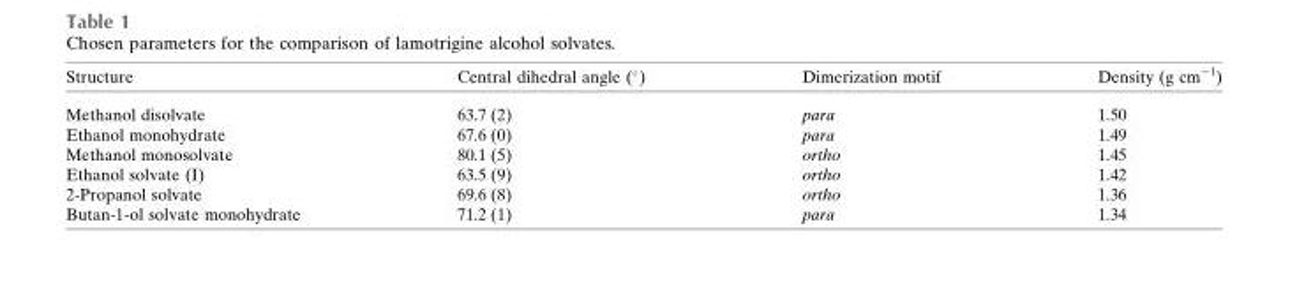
<table><thead><tr><td>Structure</td><td>Central dihedral angle (°)</td><td>Dimerization motif</td><td>Density (g cm<sup>−1</sup>)</td></tr></thead><tbody><tr><td>Methanol disolvate</td><td>63.7 (2)</td><td>para</td><td>1.50</td></tr><tr><td>Ethanol monohydrate</td><td>67.6 (0)</td><td>para</td><td>1.49</td></tr><tr><td>Methanol monosolvate</td><td>80.1 (5)</td><td>ortho</td><td>1.45</td></tr><tr><td>Ethanol solvate (I)</td><td>63.5 (9)</td><td>ortho</td><td>1.42</td></tr><tr><td>2-Propanol solvate</td><td>69.6 (8)</td><td>ortho</td><td>1.36</td></tr><tr><td>Butan-1-ol solvate monohydrate</td><td>71.2 (1)</td><td>para</td><td>1.34</td></tr></tbody></table>